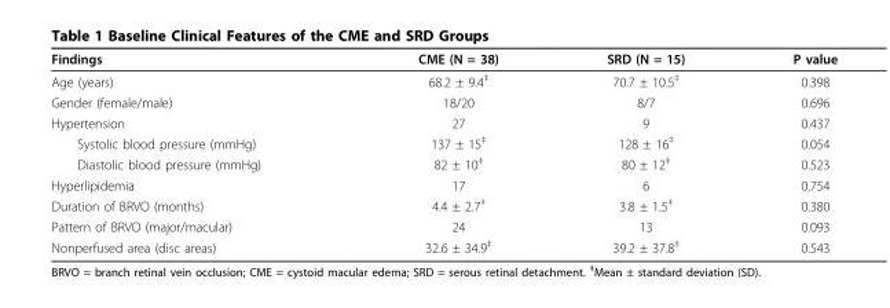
<table><thead><tr><td>Findings</td><td>CME (N = 38)</td><td>SRD (N = 15)</td><td>P value</td></tr></thead><tbody><tr><td>Age (years)</td><td>68.2 ± 9.4<sup>‡</sup></td><td>70.7 ± 10.5<sup>‡</sup></td><td>0.398</td></tr><tr><td>Gender (female/male)</td><td>18/20</td><td>8/7</td><td>0.696</td></tr><tr><td>Hypertension</td><td>27</td><td>9</td><td>0.437</td></tr><tr><td>Systolic blood pressure (mmHg)</td><td>137 ± 15<sup>‡</sup></td><td>128 ± 16<sup>‡</sup></td><td>0.054</td></tr><tr><td>Diastolic blood pressure (mmHg)</td><td>82 ± 10<sup>‡</sup></td><td>80 ± 12<sup>‡</sup></td><td>0.523</td></tr><tr><td>Hyperlipidemia</td><td>17</td><td>6</td><td>0.754</td></tr><tr><td>Duration of BRVO (months)</td><td>4.4 ± 2.7<sup>‡</sup></td><td>3.8 ± 1.5<sup>‡</sup></td><td>0.380</td></tr><tr><td>Pattern of BRVO (major/macular)</td><td>24</td><td>13</td><td>0.093</td></tr><tr><td>Nonperfused area (disc areas)</td><td>32.6 ± 34.9<sup>‡</sup></td><td>39.2 ± 37.8<sup>‡</sup></td><td>0.543</td></tr></tbody></table>